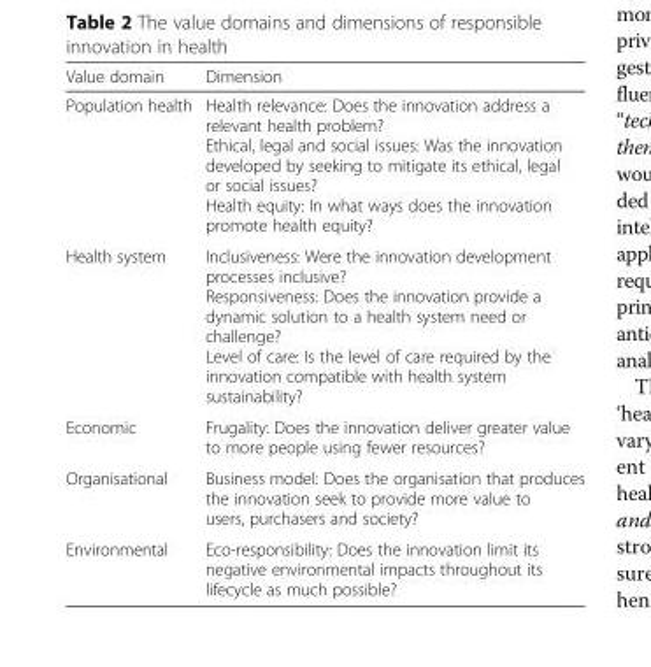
<table><thead><tr><td>Value domain</td><td>Dimension</td></tr></thead><tbody><tr><td>Population health</td><td>Health relevance: Does the innovation address a relevant health problem? Ethical, legal and social issues: Was the innovation developed by seeking to mitigate its ethical, legal or social issues? Health equity: In what ways does the innovation promote health equity?</td></tr><tr><td>Health system</td><td>Inclusiveness: Were the innovation development processes inclusive? Responsiveness: Does the innovation provide a dynamic solution to a health system need or challenge? Level of care: Is the level of care required by the innovation compatible with health system sustainability?</td></tr><tr><td>Economic</td><td>Frugality: Does the innovation deliver greater value to more people using fewer resources?</td></tr><tr><td>Organisational</td><td>Business model: Does the organisation that produces the innovation seek to provide more value to users, purchasers and society?</td></tr><tr><td>Environmental</td><td>Eco-responsibility: Does the innovation limit its negative environmental impacts throughout its lifecycle as much possible?</td></tr></tbody></table>